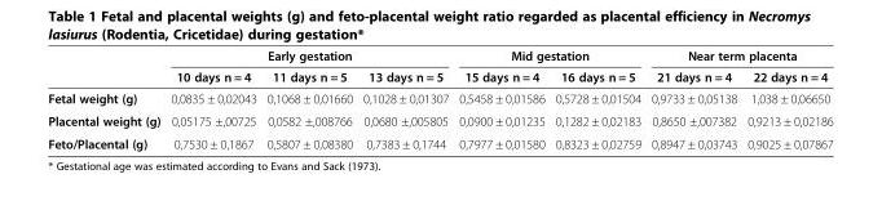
<table><thead><tr><td rowspan="2"></td><td colspan="3">Early gestation</td><td colspan="2">Mid gestation</td><td colspan="2">Near term placenta</td></tr><tr><td>10 days n = 4</td><td>11 days n = 5</td><td>13 days n = 5</td><td>15 days n = 4</td><td>16 days n = 5</td><td>21 days n = 4</td><td>22 days n = 4</td></tr></thead><tbody><tr><td>Fetal weight (g)</td><td>0,0835 ± 0,02043</td><td>0,1068 ± 0,01660</td><td>0,1028 ± 0,01307</td><td>0,5458 ± 0,01586</td><td>0,5728 ± 0,01504</td><td>0,9733 ± 0,05138</td><td>1,038 ± 0,06650</td></tr><tr><td>Placental weight (g)</td><td>0,05175 ±,00725</td><td>0,0582 ±,008766</td><td>0,0680 ±,005805</td><td>0,0900 ± 0,01235</td><td>0,1282 ± 0,02183</td><td>0,8650 ±,007382</td><td>0,9213 ± 0,02186</td></tr><tr><td>Feto/Placental (g)</td><td>0,7530 ± 0,1867</td><td>0,5807 ± 0,08380</td><td>0,7383 ± 0,1744</td><td>0,7977 ± 0,01580</td><td>0,8323 ± 0,02759</td><td>0,8947 ± 0,03743</td><td>0,9025 ± 0,07867</td></tr></tbody></table>